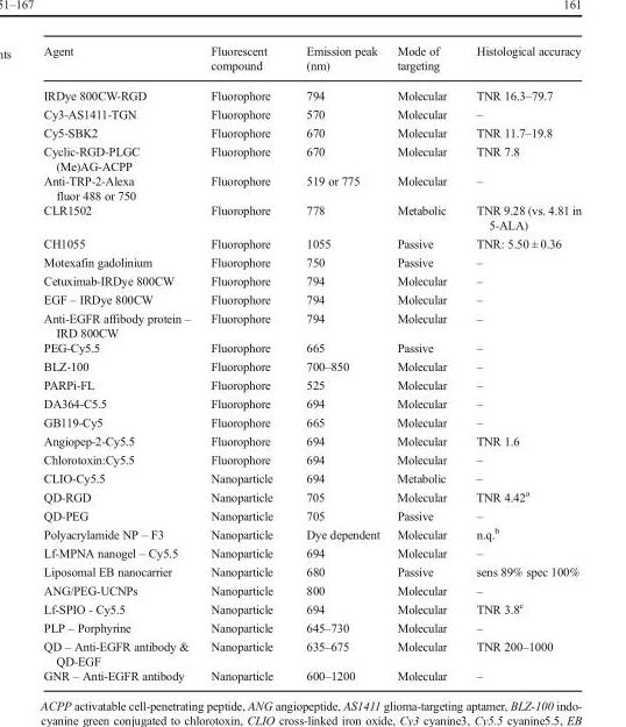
<table><thead><tr><td>Agent</td><td>Fluorescent compound</td><td>Emission peak (nm)</td><td>Mode of targeting</td><td>Histological accuracy</td></tr></thead><tbody><tr><td>IRDye 800CW-RGD</td><td>Fluorophore</td><td>794</td><td>Molecular</td><td>TNR 16.3–79.7</td></tr><tr><td>Cy3-AS1411-TGN</td><td>Fluorophore</td><td>570</td><td>Molecular</td><td>–</td></tr><tr><td>Cy5-SBK2</td><td>Fluorophore</td><td>670</td><td>Molecular</td><td>TNR 11.7–19.8</td></tr><tr><td>Cyclic-RGD-PLGC (Me)AG-ACPP</td><td>Fluorophore</td><td>670</td><td>Molecular</td><td>TNR 7.8</td></tr><tr><td>Anti-TRP-2-Alexa fluor 488 or 750</td><td>Fluorophore</td><td>519 or 775</td><td>Molecular</td><td>–</td></tr><tr><td>CLR1502</td><td>Fluorophore</td><td>778</td><td>Metabolic</td><td>TNR 9.28 (vs. 4.81 in 5-ALA)</td></tr><tr><td>CH1055</td><td>Fluorophore</td><td>1055</td><td>Passive</td><td>TNR: 5.50 ± 0.36</td></tr><tr><td>Motexafin gadolinium</td><td>Fluorophore</td><td>750</td><td>Passive</td><td>–</td></tr><tr><td>Cetuximab-IRDye 800CW</td><td>Fluorophore</td><td>794</td><td>Molecular</td><td>–</td></tr><tr><td>EGF – IRDye 800CW</td><td>Fluorophore</td><td>794</td><td>Molecular</td><td>–</td></tr><tr><td>Anti-EGFR affibody protein – IRD 800CW</td><td>Fluorophore</td><td>794</td><td>Molecular</td><td>–</td></tr><tr><td>PEG-Cy5.5</td><td>Fluorophore</td><td>665</td><td>Passive</td><td>–</td></tr><tr><td>BLZ-100</td><td>Fluorophore</td><td>700–850</td><td>Molecular</td><td>–</td></tr><tr><td>PARPi-FL</td><td>Fluorophore</td><td>525</td><td>Molecular</td><td>–</td></tr><tr><td>DA364-C5.5</td><td>Fluorophore</td><td>694</td><td>Molecular</td><td>–</td></tr><tr><td>GB119-Cy5</td><td>Fluorophore</td><td>665</td><td>Molecular</td><td>–</td></tr><tr><td>Angiopep-2-Cy5.5</td><td>Fluorophore</td><td>694</td><td>Molecular</td><td>TNR 1.6</td></tr><tr><td>Chlorotoxin:Cy5.5</td><td>Fluorophore</td><td>694</td><td>Molecular</td><td>–</td></tr><tr><td>CLIO-Cy5.5</td><td>Nanoparticle</td><td>694</td><td>Metabolic</td><td>–</td></tr><tr><td>QD-RGD</td><td>Nanoparticle</td><td>705</td><td>Molecular</td><td>TNR 4.42<sup>a</sup></td></tr><tr><td>QD-PEG</td><td>Nanoparticle</td><td>705</td><td>Passive</td><td>–</td></tr><tr><td>Polyacrylamide NP – F3</td><td>Nanoparticle</td><td>Dye dependent</td><td>Molecular</td><td>n.q.<sup>b</sup></td></tr><tr><td>Lf-MPNA nanogel – Cy5.5</td><td>Nanoparticle</td><td>694</td><td>Molecular</td><td>–</td></tr><tr><td>Liposomal EB nanocarrier</td><td>Nanoparticle</td><td>680</td><td>Passive</td><td>sens 89% spec 100%</td></tr><tr><td>ANG/PEG-UCNPs</td><td>Nanoparticle</td><td>800</td><td>Molecular</td><td>–</td></tr><tr><td>Lf-SPIO - Cy5.5</td><td>Nanoparticle</td><td>694</td><td>Molecular</td><td>TNR 3.8<sup>c</sup></td></tr><tr><td>PLP – Porphyrine</td><td>Nanoparticle</td><td>645–730</td><td>Molecular</td><td>–</td></tr><tr><td>QD – Anti-EGFR antibody &amp; QD-EGF</td><td>Nanoparticle</td><td>635–675</td><td>Molecular</td><td>TNR 200–1000</td></tr><tr><td>GNR – Anti-EGFR antibody</td><td>Nanoparticle</td><td>600–1200</td><td>Molecular</td><td>–</td></tr></tbody></table>